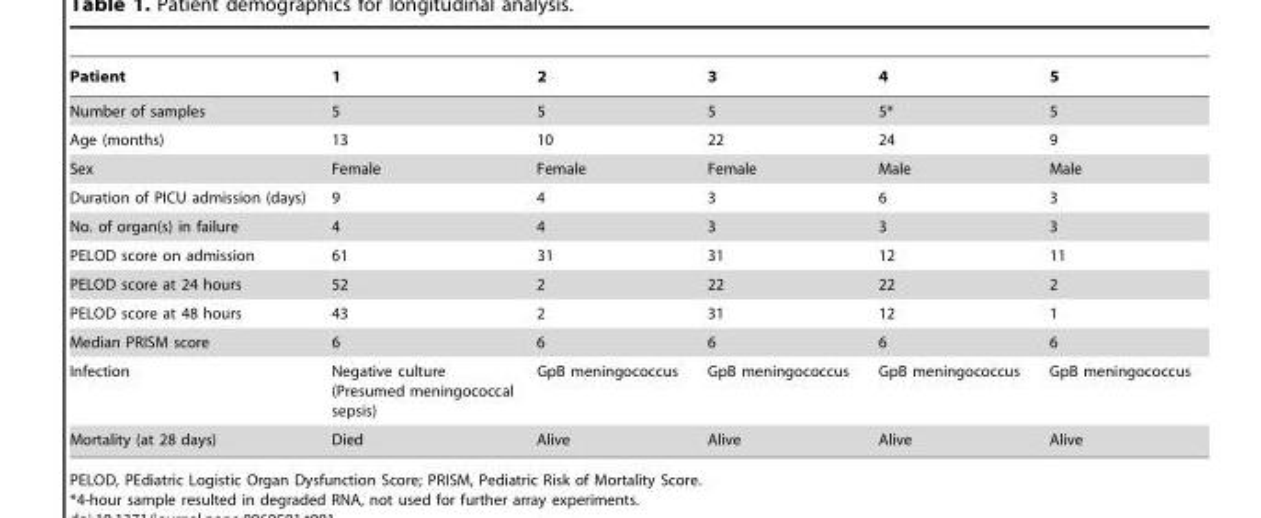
<table><thead><tr><td>Patient</td><td>1</td><td>2</td><td>3</td><td>4</td><td>5</td></tr></thead><tbody><tr><td>Number of samples</td><td>5</td><td>5</td><td>5</td><td>5*</td><td>5</td></tr><tr><td>Age (months)</td><td>13</td><td>10</td><td>22</td><td>24</td><td>9</td></tr><tr><td>Sex</td><td>Female</td><td>Female</td><td>Female</td><td>Male</td><td>Male</td></tr><tr><td>Duration of PICU admission (days)</td><td>9</td><td>4</td><td>3</td><td>6</td><td>3</td></tr><tr><td>No. of organ(s) in failure</td><td>4</td><td>4</td><td>3</td><td>3</td><td>3</td></tr><tr><td>PELOD score on admission</td><td>61</td><td>31</td><td>31</td><td>12</td><td>11</td></tr><tr><td>PELOD score at 24 hours</td><td>52</td><td>2</td><td>22</td><td>22</td><td>2</td></tr><tr><td>PELOD score at 48 hours</td><td>43</td><td>2</td><td>31</td><td>12</td><td>1</td></tr><tr><td>Median PRISM score</td><td>6</td><td>6</td><td>6</td><td>6</td><td>6</td></tr><tr><td>Infection</td><td>Negative culture (Presumed meningococcal sepsis)</td><td>GpB meningococcus</td><td>GpB meningococcus</td><td>GpB meningococcus</td><td>GpB meningococcus</td></tr><tr><td>Mortality (at 28 days)</td><td>Died</td><td>Alive</td><td>Alive</td><td>Alive</td><td>Alive</td></tr></tbody></table>